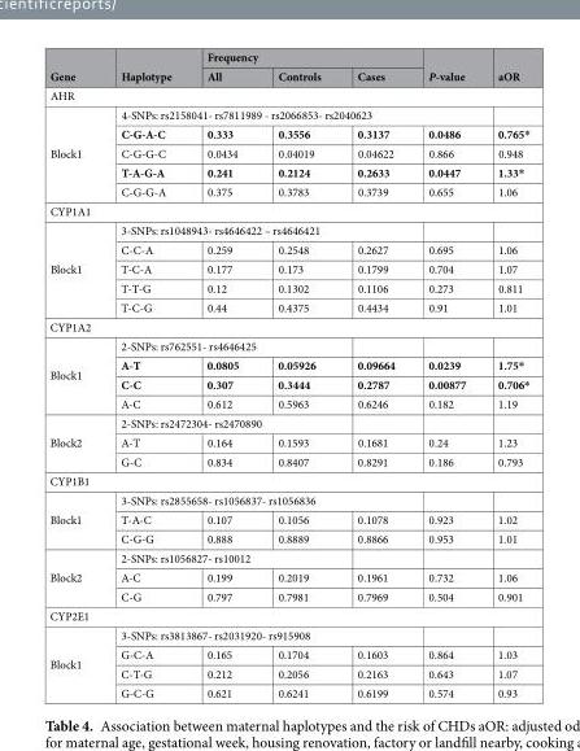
<table><thead><tr><td rowspan="2">Gene</td><td rowspan="2">Haplotype</td><td colspan="3">Frequency</td><td rowspan="2">P-value</td><td rowspan="2">aOR</td></tr><tr><td>All</td><td>Controls</td><td>Cases</td></tr></thead><tbody><tr><td colspan="7">AHR</td></tr><tr><td rowspan="5">Block1</td><td colspan="5">4-SNPs: rs2158041- rs7811989 - rs2066853- rs2040623</td><td></td></tr><tr><td>C-G-A-C</td><td>0.333</td><td>0.3556</td><td>0.3137</td><td>0.0486</td><td>0.765*</td></tr><tr><td>C-G-G-C</td><td>0.0434</td><td>0.04019</td><td>0.04622</td><td>0.866</td><td>0.948</td></tr><tr><td>T-A-G-A</td><td>0.241</td><td>0.2124</td><td>0.2633</td><td>0.0447</td><td>1.33*</td></tr><tr><td>C-G-G-A</td><td>0.375</td><td>0.3783</td><td>0.3739</td><td>0.655</td><td>1.06</td></tr><tr><td colspan="7">CYP1A1</td></tr><tr><td rowspan="5">Block1</td><td colspan="4">3-SNPs: rs1048943- rs4646422 – rs4646421</td><td></td><td></td></tr><tr><td>C-C-A</td><td>0.259</td><td>0.2548</td><td>0.2627</td><td>0.695</td><td>1.06</td></tr><tr><td>T-C-A</td><td>0.177</td><td>0.173</td><td>0.1799</td><td>0.704</td><td>1.07</td></tr><tr><td>T-T-G</td><td>0.12</td><td>0.1302</td><td>0.1106</td><td>0.273</td><td>0.811</td></tr><tr><td>T-C-G</td><td>0.44</td><td>0.4375</td><td>0.4434</td><td>0.91</td><td>1.01</td></tr><tr><td colspan="7">CYP1A2</td></tr><tr><td rowspan="4">Block1</td><td colspan="3">2-SNPs: rs762551- rs4646425</td><td></td><td></td><td></td></tr><tr><td>A-T</td><td>0.0805</td><td>0.05926</td><td>0.09664</td><td>0.0239</td><td>1.75*</td></tr><tr><td>C-C</td><td>0.307</td><td>0.3444</td><td>0.2787</td><td>0.00877</td><td>0.706*</td></tr><tr><td>A-C</td><td>0.612</td><td>0.5963</td><td>0.6246</td><td>0.182</td><td>1.19</td></tr><tr><td rowspan="3">Block2</td><td colspan="3">2-SNPs: rs2472304- rs2470890</td><td></td><td></td><td></td></tr><tr><td>A-T</td><td>0.164</td><td>0.1593</td><td>0.1681</td><td>0.24</td><td>1.23</td></tr><tr><td>G-C</td><td>0.834</td><td>0.8407</td><td>0.8291</td><td>0.186</td><td>0.793</td></tr><tr><td colspan="7">CYP1B1</td></tr><tr><td rowspan="3">Block1</td><td colspan="4">3-SNPs: rs2855658- rs1056837- rs1056836</td><td></td><td></td></tr><tr><td>T-A-C</td><td>0.107</td><td>0.1056</td><td>0.1078</td><td>0.923</td><td>1.02</td></tr><tr><td>C-G-G</td><td>0.888</td><td>0.8889</td><td>0.8866</td><td>0.953</td><td>1.01</td></tr><tr><td rowspan="3">Block2</td><td colspan="3">2-SNPs: rs1056827- rs10012</td><td></td><td></td><td></td></tr><tr><td>A-C</td><td>0.199</td><td>0.2019</td><td>0.1961</td><td>0.732</td><td>1.06</td></tr><tr><td>C-G</td><td>0.797</td><td>0.7981</td><td>0.7969</td><td>0.504</td><td>0.901</td></tr><tr><td colspan="7">CYP2E1</td></tr><tr><td rowspan="4">Block1</td><td colspan="4">3-SNPs: rs3813867- rs2031920- rs915908</td><td></td><td></td></tr><tr><td>G-C-A</td><td>0.165</td><td>0.1704</td><td>0.1603</td><td>0.864</td><td>1.03</td></tr><tr><td>C-T-G</td><td>0.212</td><td>0.2056</td><td>0.2163</td><td>0.643</td><td>1.07</td></tr><tr><td>G-C-G</td><td>0.621</td><td>0.6241</td><td>0.6199</td><td>0.574</td><td>0.93</td></tr></tbody></table>